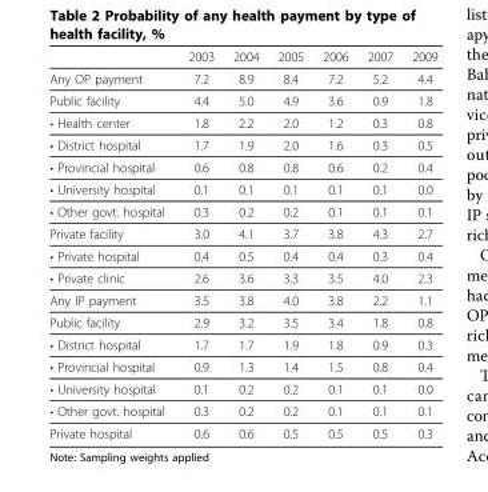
<table><thead><tr><td></td><td>2003</td><td>2004</td><td>2005</td><td>2006</td><td>2007</td><td>2009</td></tr></thead><tbody><tr><td>Any OP payment</td><td>7.2</td><td>8.9</td><td>8.4</td><td>7.2</td><td>5.2</td><td>4.4</td></tr><tr><td>Public facility</td><td>4.4</td><td>5.0</td><td>4.9</td><td>3.6</td><td>0.9</td><td>1.8</td></tr><tr><td>• Health center</td><td>1.8</td><td>2.2</td><td>2.0</td><td>1.2</td><td>0.3</td><td>0.8</td></tr><tr><td>• District hospital</td><td>1.7</td><td>1.9</td><td>2.0</td><td>1.6</td><td>0.3</td><td>0.5</td></tr><tr><td>• Provincial hospital</td><td>0.6</td><td>0.8</td><td>0.8</td><td>0.6</td><td>0.2</td><td>0.4</td></tr><tr><td>• University hospital</td><td>0.1</td><td>0.1</td><td>0.1</td><td>0.1</td><td>0.1</td><td>0.0</td></tr><tr><td>• Other govt. hospital</td><td>0.3</td><td>0.2</td><td>0.2</td><td>0.1</td><td>0.1</td><td>0.1</td></tr><tr><td>Private facility</td><td>3.0</td><td>4.1</td><td>3.7</td><td>3.8</td><td>4.3</td><td>2.7</td></tr><tr><td>• Private hospital</td><td>0.4</td><td>0.5</td><td>0.4</td><td>0.4</td><td>0.3</td><td>0.4</td></tr><tr><td>• Private clinic</td><td>2.6</td><td>3.6</td><td>3.3</td><td>3.5</td><td>4.0</td><td>2.3</td></tr><tr><td>Any IP payment</td><td>3.5</td><td>3.8</td><td>4.0</td><td>3.8</td><td>2.2</td><td>1.1</td></tr><tr><td>Public facility</td><td>2.9</td><td>3.2</td><td>3.5</td><td>3.4</td><td>1.8</td><td>0.8</td></tr><tr><td>• District hospital</td><td>1.7</td><td>1.7</td><td>1.9</td><td>1.8</td><td>0.9</td><td>0.3</td></tr><tr><td>• Provincial hospital</td><td>0.9</td><td>1.3</td><td>1.4</td><td>1.5</td><td>0.8</td><td>0.4</td></tr><tr><td>• University hospital</td><td>0.1</td><td>0.2</td><td>0.2</td><td>0.1</td><td>0.1</td><td>0.0</td></tr><tr><td>• Other govt. hospital</td><td>0.3</td><td>0.2</td><td>0.2</td><td>0.1</td><td>0.1</td><td>0.1</td></tr><tr><td>Private hospital</td><td>0.6</td><td>0.6</td><td>0.5</td><td>0.5</td><td>0.5</td><td>0.3</td></tr></tbody></table>